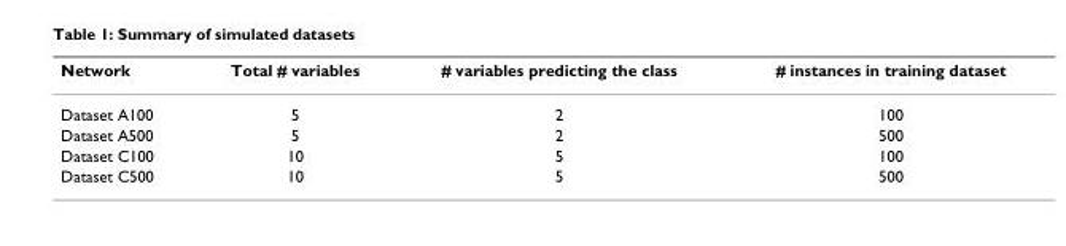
<table><thead><tr><td>Network</td><td>Total # variables</td><td># variables predicting the class</td><td># instances in training dataset</td></tr></thead><tbody><tr><td>Dataset A100</td><td>5</td><td>2</td><td>100</td></tr><tr><td>Dataset A500</td><td>5</td><td>2</td><td>500</td></tr><tr><td>Dataset C100</td><td>10</td><td>5</td><td>100</td></tr><tr><td>Dataset C500</td><td>10</td><td>5</td><td>500</td></tr></tbody></table>